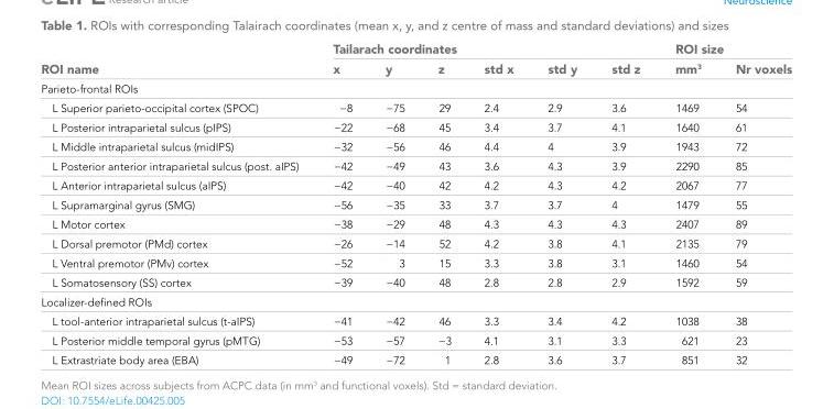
<table><thead><tr><td rowspan="2">ROI name</td><td colspan="6">Tailarach coordinates</td><td colspan="2">ROI size</td></tr><tr><td>x</td><td>y</td><td>z</td><td>std x</td><td>std y</td><td>std z</td><td>mm<sup>3</sup></td><td>Nr voxels</td></tr></thead><tbody><tr><td colspan="9">Parieto-frontal ROIs</td></tr><tr><td>L Superior parieto-occipital cortex (SPOC)</td><td>−8</td><td>−75</td><td>29</td><td>2.4</td><td>2.9</td><td>3.6</td><td>1469</td><td>54</td></tr><tr><td>L Posterior intraparietal sulcus (pIPS)</td><td>−22</td><td>−68</td><td>45</td><td>3.4</td><td>3.7</td><td>4.1</td><td>1640</td><td>61</td></tr><tr><td>L Middle intraparietal sulcus (midIPS)</td><td>−32</td><td>−56</td><td>46</td><td>4.4</td><td>4</td><td>3.9</td><td>1943</td><td>72</td></tr><tr><td>L Posterior anterior intraparietal sulcus (post. aIPS)</td><td>−42</td><td>−49</td><td>43</td><td>3.6</td><td>4.3</td><td>3.9</td><td>2290</td><td>85</td></tr><tr><td>L Anterior intraparietal sulcus (aIPS)</td><td>−42</td><td>−40</td><td>42</td><td>4.2</td><td>4.3</td><td>4.2</td><td>2067</td><td>77</td></tr><tr><td>L Supramarginal gyrus (SMG)</td><td>−56</td><td>−35</td><td>33</td><td>3.7</td><td>3.7</td><td>4</td><td>1479</td><td>55</td></tr><tr><td>L Motor cortex</td><td>−38</td><td>−29</td><td>48</td><td>4.3</td><td>4.3</td><td>4.3</td><td>2407</td><td>89</td></tr><tr><td>L Dorsal premotor (PMd) cortex</td><td>−26</td><td>−14</td><td>52</td><td>4.2</td><td>3.8</td><td>4.1</td><td>2135</td><td>79</td></tr><tr><td>L Ventral premotor (PMv) cortex</td><td>−52</td><td>3</td><td>15</td><td>3.3</td><td>3.8</td><td>3.1</td><td>1460</td><td>54</td></tr><tr><td>L Somatosensory (SS) cortex</td><td>−39</td><td>−40</td><td>48</td><td>2.8</td><td>2.8</td><td>2.9</td><td>1592</td><td>59</td></tr><tr><td colspan="9">Localizer-defined ROIs</td></tr><tr><td>L tool-anterior intraparietal sulcus (t-aIPS)</td><td>−41</td><td>−42</td><td>46</td><td>3.3</td><td>3.4</td><td>4.2</td><td>1038</td><td>38</td></tr><tr><td>L Posterior middle temporal gyrus (pMTG)</td><td>−53</td><td>−57</td><td>−3</td><td>4.1</td><td>3.1</td><td>3.3</td><td>621</td><td>23</td></tr><tr><td>L Extrastriate body area (EBA)</td><td>−49</td><td>−72</td><td>1</td><td>2.8</td><td>3.6</td><td>3.7</td><td>851</td><td>32</td></tr></tbody></table>